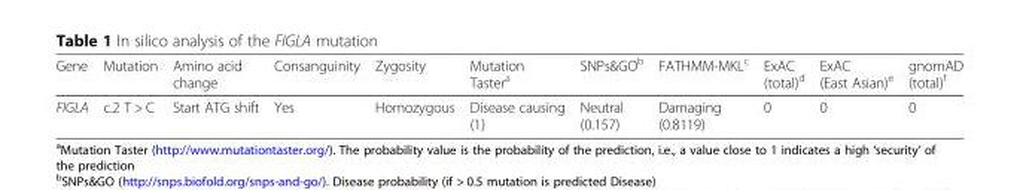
<table><thead><tr><td>Gene</td><td>Mutation</td><td>Amino acid change</td><td>Consanguinity</td><td>Zygosity</td><td>Mutation Taster<sup>a</sup></td><td>SNPs&amp;GO<sup>b</sup></td><td>FATHMM-MKL<sup>c</sup></td><td>ExAC (total)<sup>d</sup></td><td>ExAC (East Asian)<sup>e</sup></td><td>gnomAD (total)<sup>f</sup></td></tr></thead><tbody><tr><td>FIGLA</td><td>c.2 T &gt; C</td><td>Start ATG shift</td><td>Yes</td><td>Homozygous</td><td>Disease causing (1)</td><td>Neutral (0.157)</td><td>Damaging (0.8119)</td><td>0</td><td>0</td><td>0</td></tr></tbody></table>